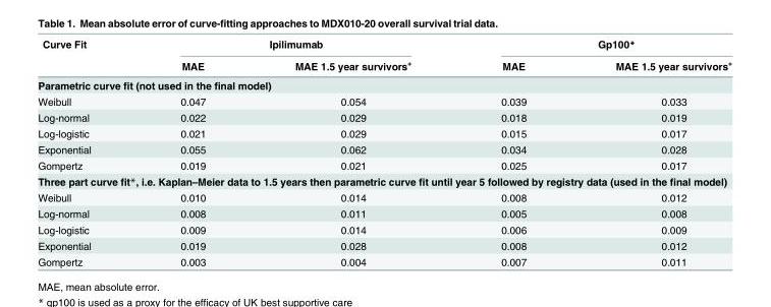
<table><thead><tr><td rowspan="2">Curve Fit</td><td colspan="2">Ipilimumab</td><td colspan="2">Gp100*</td></tr><tr><td>MAE</td><td>MAE 1.5 year survivors<sup>+</sup></td><td>MAE</td><td>MAE 1.5 year survivors<sup>+</sup></td></tr></thead><tbody><tr><td colspan="5">Parametric curve fit (not used in the final model)</td></tr><tr><td>Weibull</td><td>0.047</td><td>0.054</td><td>0.039</td><td>0.033</td></tr><tr><td>Log-normal</td><td>0.022</td><td>0.029</td><td>0.018</td><td>0.019</td></tr><tr><td>Log-logistic</td><td>0.021</td><td>0.029</td><td>0.015</td><td>0.017</td></tr><tr><td>Exponential</td><td>0.055</td><td>0.062</td><td>0.034</td><td>0.028</td></tr><tr><td>Gompertz</td><td>0.019</td><td>0.021</td><td>0.025</td><td>0.017</td></tr><tr><td colspan="5">Three part curve fit*, i.e. Kaplan–Meier data to 1.5 years then parametric curve fit until year 5 followed by registry data (used in the final model)</td></tr><tr><td>Weibull</td><td>0.010</td><td>0.014</td><td>0.008</td><td>0.012</td></tr><tr><td>Log-normal</td><td>0.008</td><td>0.011</td><td>0.005</td><td>0.008</td></tr><tr><td>Log-logistic</td><td>0.009</td><td>0.014</td><td>0.006</td><td>0.009</td></tr><tr><td>Exponential</td><td>0.019</td><td>0.028</td><td>0.008</td><td>0.012</td></tr><tr><td>Gompertz</td><td>0.003</td><td>0.004</td><td>0.007</td><td>0.011</td></tr></tbody></table>